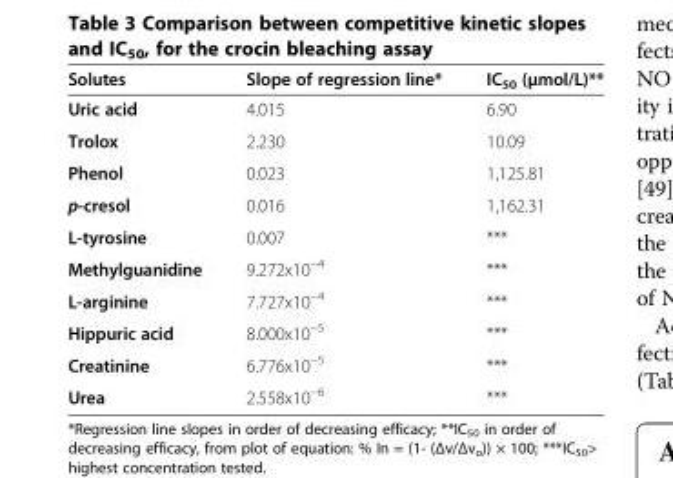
<table><thead><tr><td>Solutes</td><td>Slope of regression line*</td><td>IC<sub>50</sub> (μmol/L)**</td></tr></thead><tbody><tr><td>Uric acid</td><td>4.015</td><td>6.90</td></tr><tr><td>Trolox</td><td>2.230</td><td>10.09</td></tr><tr><td>Phenol</td><td>0.023</td><td>1,125.81</td></tr><tr><td>p-cresol</td><td>0.016</td><td>1,162.31</td></tr><tr><td>L-tyrosine</td><td>0.007</td><td>***</td></tr><tr><td>Methylguanidine</td><td>9.272x10<sup>−4</sup></td><td>***</td></tr><tr><td>L-arginine</td><td>7.727x10<sup>−4</sup></td><td>***</td></tr><tr><td>Hippuric acid</td><td>8.000x10<sup>−5</sup></td><td>***</td></tr><tr><td>Creatinine</td><td>6.776x10<sup>−5</sup></td><td>***</td></tr><tr><td>Urea</td><td>2.558x10<sup>−6</sup></td><td>***</td></tr></tbody></table>